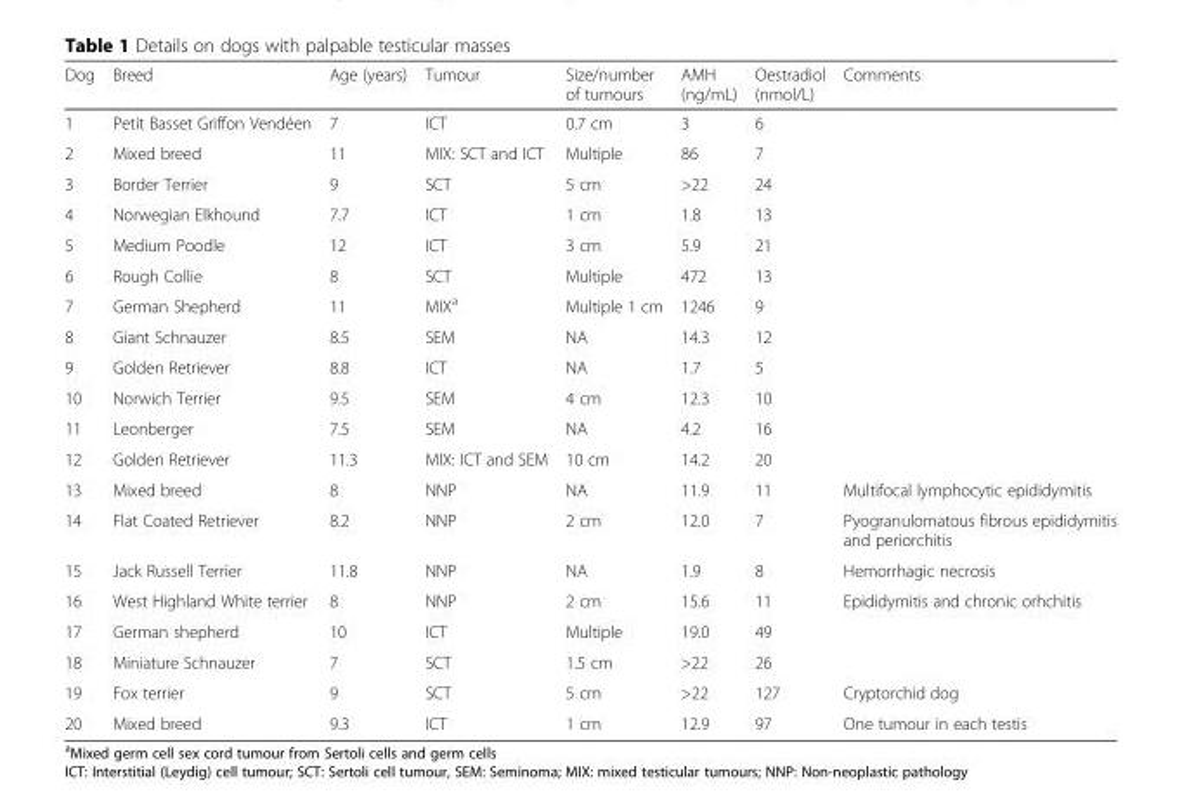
<table><thead><tr><td>Dog</td><td>Breed</td><td>Age (years)</td><td>Tumour</td><td>Size/number of tumours</td><td>AMH (ng/mL)</td><td>Oestradiol (nmol/L)</td><td>Comments</td></tr></thead><tbody><tr><td>1</td><td>Petit Basset Griffon Vendéen</td><td>7</td><td>ICT</td><td>0.7 cm</td><td>3</td><td>6</td><td></td></tr><tr><td>2</td><td>Mixed breed</td><td>11</td><td>MIX: SCT and ICT</td><td>Multiple</td><td>86</td><td>7</td><td></td></tr><tr><td>3</td><td>Border Terrier</td><td>9</td><td>SCT</td><td>5 cm</td><td>&gt;22</td><td>24</td><td></td></tr><tr><td>4</td><td>Norwegian Elkhound</td><td>7.7</td><td>ICT</td><td>1 cm</td><td>1.8</td><td>13</td><td></td></tr><tr><td>5</td><td>Medium Poodle</td><td>12</td><td>ICT</td><td>3 cm</td><td>5.9</td><td>21</td><td></td></tr><tr><td>6</td><td>Rough Collie</td><td>8</td><td>SCT</td><td>Multiple</td><td>472</td><td>13</td><td></td></tr><tr><td>7</td><td>German Shepherd</td><td>11</td><td>MIX<sup>a</sup></td><td>Multiple 1 cm</td><td>1246</td><td>9</td><td></td></tr><tr><td>8</td><td>Giant Schnauzer</td><td>8.5</td><td>SEM</td><td>NA</td><td>14.3</td><td>12</td><td></td></tr><tr><td>9</td><td>Golden Retriever</td><td>8.8</td><td>ICT</td><td>NA</td><td>1.7</td><td>5</td><td></td></tr><tr><td>10</td><td>Norwich Terrier</td><td>9.5</td><td>SEM</td><td>4 cm</td><td>12.3</td><td>10</td><td></td></tr><tr><td>11</td><td>Leonberger</td><td>7.5</td><td>SEM</td><td>NA</td><td>4.2</td><td>16</td><td></td></tr><tr><td>12</td><td>Golden Retriever</td><td>11.3</td><td>MIX: ICT and SEM</td><td>10 cm</td><td>14.2</td><td>20</td><td></td></tr><tr><td>13</td><td>Mixed breed</td><td>8</td><td>NNP</td><td>NA</td><td>11.9</td><td>11</td><td>Multifocal lymphocytic epididymitis</td></tr><tr><td>14</td><td>Flat Coated Retriever</td><td>8.2</td><td>NNP</td><td>2 cm</td><td>12.0</td><td>7</td><td>Pyogranulomatous fibrous epididymitis and periorchitis</td></tr><tr><td>15</td><td>Jack Russell Terrier</td><td>11.8</td><td>NNP</td><td>NA</td><td>1.9</td><td>8</td><td>Hemorrhagic necrosis</td></tr><tr><td>16</td><td>West Highland White terrier</td><td>8</td><td>NNP</td><td>2 cm</td><td>15.6</td><td>11</td><td>Epididymitis and chronic orhchitis</td></tr><tr><td>17</td><td>German shepherd</td><td>10</td><td>ICT</td><td>Multiple</td><td>19.0</td><td>49</td><td></td></tr><tr><td>18</td><td>Miniature Schnauzer</td><td>7</td><td>SCT</td><td>1.5 cm</td><td>&gt;22</td><td>26</td><td></td></tr><tr><td>19</td><td>Fox terrier</td><td>9</td><td>SCT</td><td>5 cm</td><td>&gt;22</td><td>127</td><td>Cryptorchid dog</td></tr><tr><td>20</td><td>Mixed breed</td><td>9.3</td><td>ICT</td><td>1 cm</td><td>12.9</td><td>97</td><td>One tumour in each testis</td></tr></tbody></table>